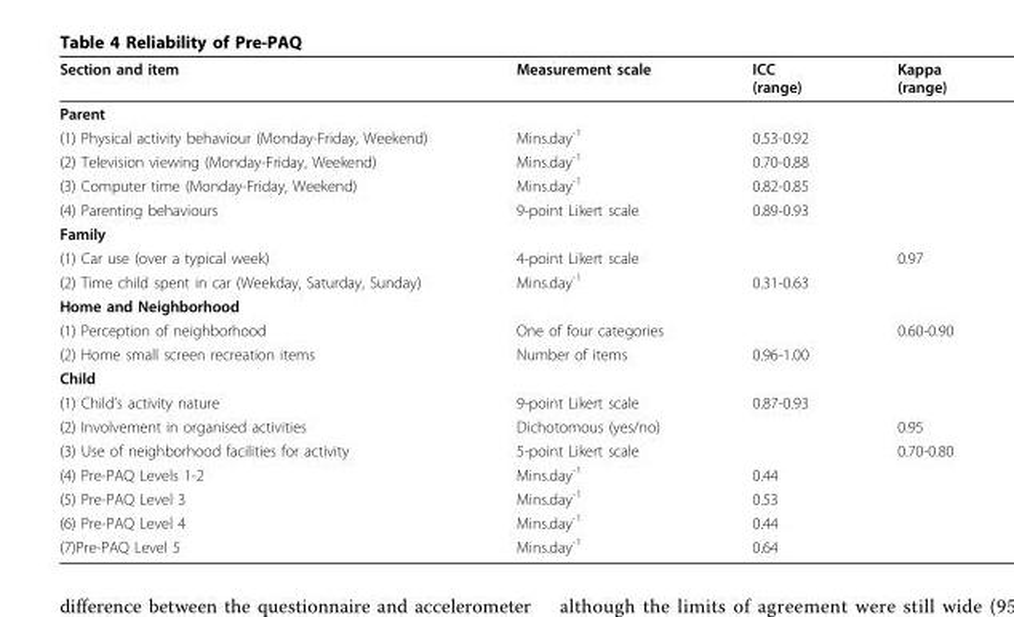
<table><thead><tr><td>Section and item</td><td>Measurement scale</td><td>ICC (range)</td><td>Kappa (range)</td></tr></thead><tbody><tr><td colspan="4">Parent</td></tr><tr><td>(1) Physical activity behaviour (Monday-Friday, Weekend)</td><td>Mins.day<sup>-1</sup></td><td>0.53-0.92</td><td></td></tr><tr><td>(2) Television viewing (Monday-Friday, Weekend)</td><td>Mins.day<sup>-1</sup></td><td>0.70-0.88</td><td></td></tr><tr><td>(3) Computer time (Monday-Friday, Weekend)</td><td>Mins.day<sup>-1</sup></td><td>0.82-0.85</td><td></td></tr><tr><td>(4) Parenting behaviours</td><td>9-point Likert scale</td><td>0.89-0.93</td><td></td></tr><tr><td colspan="4">Family</td></tr><tr><td>(1) Car use (over a typical week)</td><td>4-point Likert scale</td><td></td><td>0.97</td></tr><tr><td>(2) Time child spent in car (Weekday, Saturday, Sunday)</td><td>Mins.day<sup>-1</sup></td><td>0.31-0.63</td><td></td></tr><tr><td colspan="4">Home and Neighborhood</td></tr><tr><td>(1) Perception of neighborhood</td><td>One of four categories</td><td></td><td>0.60-0.90</td></tr><tr><td>(2) Home small screen recreation items</td><td>Number of items</td><td>0.96-1.00</td><td></td></tr><tr><td colspan="4">Child</td></tr><tr><td>(1) Child’s activity nature</td><td>9-point Likert scale</td><td>0.87-0.93</td><td></td></tr><tr><td>(2) Involvement in organised activities</td><td>Dichotomous (yes/no)</td><td></td><td>0.95</td></tr><tr><td>(3) Use of neighborhood facilities for activity</td><td>5-point Likert scale</td><td></td><td>0.70-0.80</td></tr><tr><td>(4) Pre-PAQ Levels 1-2</td><td>Mins.day<sup>-1</sup></td><td>0.44</td><td></td></tr><tr><td>(5) Pre-PAQ Level 3</td><td>Mins.day<sup>-1</sup></td><td>0.53</td><td></td></tr><tr><td>(6) Pre-PAQ Level 4</td><td>Mins.day<sup>-1</sup></td><td>0.44</td><td></td></tr><tr><td>(7)Pre-PAQ Level 5</td><td>Mins.day<sup>-1</sup></td><td>0.64</td><td></td></tr></tbody></table>